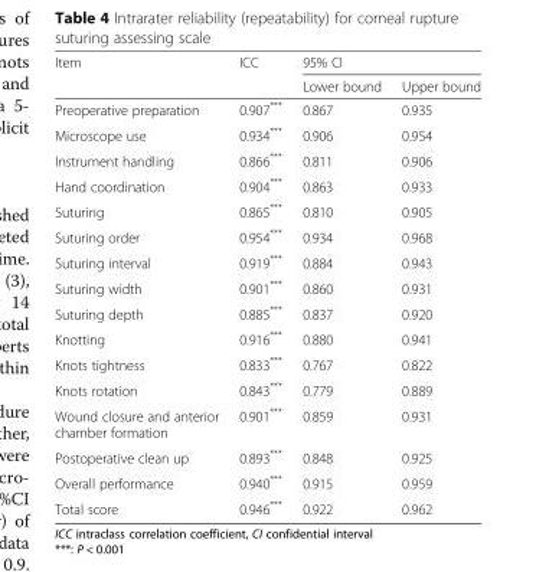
<table><thead><tr><td rowspan="2">Item</td><td rowspan="2">ICC</td><td colspan="2">95% CI</td></tr><tr><td>Lower bound</td><td>Upper bound</td></tr></thead><tbody><tr><td>Preoperative preparation</td><td>0.907***</td><td>0.867</td><td>0.935</td></tr><tr><td>Microscope use</td><td>0.934***</td><td>0.906</td><td>0.954</td></tr><tr><td>Instrument handling</td><td>0.866***</td><td>0.811</td><td>0.906</td></tr><tr><td>Hand coordination</td><td>0.904***</td><td>0.863</td><td>0.933</td></tr><tr><td>Suturing</td><td>0.865***</td><td>0.810</td><td>0.905</td></tr><tr><td>Suturing order</td><td>0.954***</td><td>0.934</td><td>0.968</td></tr><tr><td>Suturing interval</td><td>0.919***</td><td>0.884</td><td>0.943</td></tr><tr><td>Suturing width</td><td>0.901***</td><td>0.860</td><td>0.931</td></tr><tr><td>Suturing depth</td><td>0.885***</td><td>0.837</td><td>0.920</td></tr><tr><td>Knotting</td><td>0.916***</td><td>0.880</td><td>0.941</td></tr><tr><td>Knots tightness</td><td>0.833***</td><td>0.767</td><td>0.822</td></tr><tr><td>Knots rotation</td><td>0.843***</td><td>0.779</td><td>0.889</td></tr><tr><td>Wound closure and anterior chamber formation</td><td>0.901***</td><td>0.859</td><td>0.931</td></tr><tr><td>Postoperative clean up</td><td>0.893***</td><td>0.848</td><td>0.925</td></tr><tr><td>Overall performance</td><td>0.940***</td><td>0.915</td><td>0.959</td></tr><tr><td>Total score</td><td>0.946***</td><td>0.922</td><td>0.962</td></tr></tbody></table>